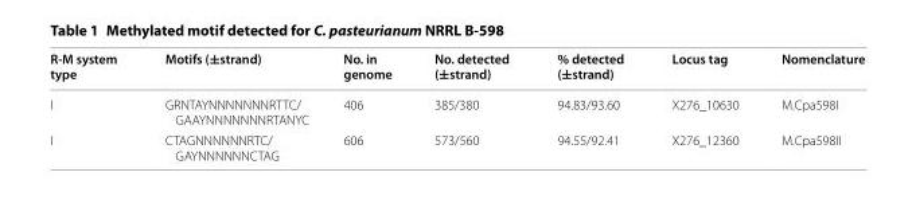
<table><thead><tr><td>R‑M system type</td><td>Motifs (±strand)</td><td>No. in genome</td><td>No. detected (±strand)</td><td>% detected (±strand)</td><td>Locus tag</td><td>Nomenclature</td></tr></thead><tbody><tr><td>I</td><td>GRNTAYNNNNNNNRTTC/ GAAYNNNNNNNRTANYC</td><td>406</td><td>385/380</td><td>94.83/93.60</td><td>X276_10630</td><td>M.Cpa598I</td></tr><tr><td>I</td><td>CTAGNNNNNNRTC/ GAYNNNNNNCTAG</td><td>606</td><td>573/560</td><td>94.55/92.41</td><td>X276_12360</td><td>M.Cpa598II</td></tr></tbody></table>